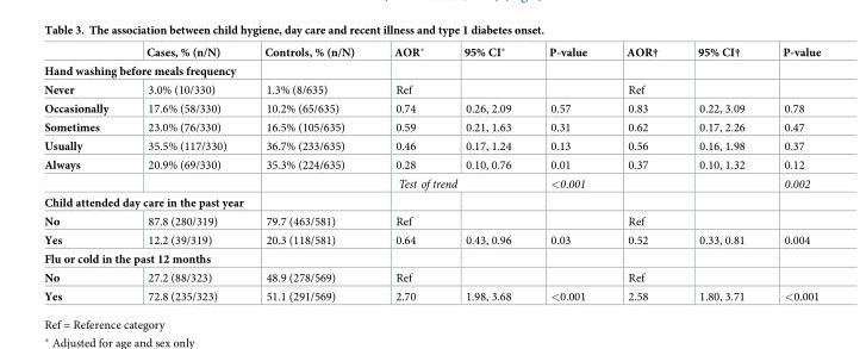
<table><thead><tr><td></td><td>Cases, % (n/N)</td><td>Controls, % (n/N)</td><td>AOR*</td><td>95% CI*</td><td>P-value</td><td>AOR†</td><td>95% CI†</td><td>P-value</td></tr></thead><tbody><tr><td colspan="9">Hand washing before meals frequency</td></tr><tr><td>Never</td><td>3.0% (10/330)</td><td>1.3% (8/635)</td><td>Ref</td><td></td><td></td><td>Ref</td><td></td><td></td></tr><tr><td>Occasionally</td><td>17.6% (58/330)</td><td>10.2% (65/635)</td><td>0.74</td><td>0.26, 2.09</td><td>0.57</td><td>0.83</td><td>0.22, 3.09</td><td>0.78</td></tr><tr><td>Sometimes</td><td>23.0% (76/330)</td><td>16.5% (105/635)</td><td>0.59</td><td>0.21, 1.63</td><td>0.31</td><td>0.62</td><td>0.17, 2.26</td><td>0.47</td></tr><tr><td>Usually</td><td>35.5% (117/330)</td><td>36.7% (233/635)</td><td>0.46</td><td>0.17, 1.24</td><td>0.13</td><td>0.56</td><td>0.16, 1.98</td><td>0.37</td></tr><tr><td rowspan="2">Always</td><td>20.9% (69/330)</td><td>35.3% (224/635)</td><td>0.28</td><td>0.10, 0.76</td><td>0.01</td><td>0.37</td><td>0.10, 1.32</td><td>0.12</td></tr><tr><td></td><td></td><td colspan="2">Test of trend</td><td>&lt;0.001</td><td></td><td></td><td>0.002</td></tr><tr><td colspan="9">Child attended day care in the past year</td></tr><tr><td>No</td><td>87.8 (280/319)</td><td>79.7 (463/581)</td><td>Ref</td><td></td><td></td><td>Ref</td><td></td><td></td></tr><tr><td>Yes</td><td>12.2 (39/319)</td><td>20.3 (118/581)</td><td>0.64</td><td>0.43, 0.96</td><td>0.03</td><td>0.52</td><td>0.33, 0.81</td><td>0.004</td></tr><tr><td colspan="9">Flu or cold in the past 12 months</td></tr><tr><td>No</td><td>27.2 (88/323)</td><td>48.9 (278/569)</td><td>Ref</td><td></td><td></td><td>Ref</td><td></td><td></td></tr><tr><td>Yes</td><td>72.8 (235/323)</td><td>51.1 (291/569)</td><td>2.70</td><td>1.98, 3.68</td><td>&lt;0.001</td><td>2.58</td><td>1.80, 3.71</td><td>&lt;0.001</td></tr></tbody></table>